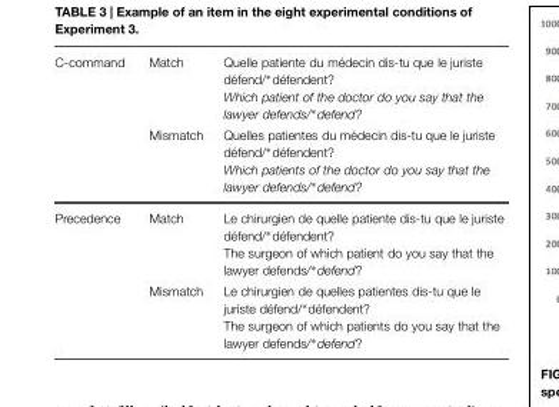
<table><tbody><tr><td rowspan="2">C-command</td><td>Match</td><td>Quelle patiente du médecin dis-tu que le juriste défend/∗défendent? Which patient of the doctor do you say that the lawyer defends/∗defend?</td></tr><tr><td>Mismatch</td><td>Quelles patientes du médecin dis-tu que le juriste défend/∗défendent? Which patients of the doctor do you say that the lawyer defends/∗defend?</td></tr><tr><td rowspan="2">Precedence</td><td>Match</td><td>Le chirurgien de quelle patiente dis-tu que le juriste défend/∗défendent? The surgeon of which patient do you say that the lawyer defends/∗defend?</td></tr><tr><td>Mismatch</td><td>Le chirurgien de quelles patientes dis-tu que le juriste défend/∗défendent? The surgeon of which patients do you say that the lawyer defends/∗defend?</td></tr></tbody></table>